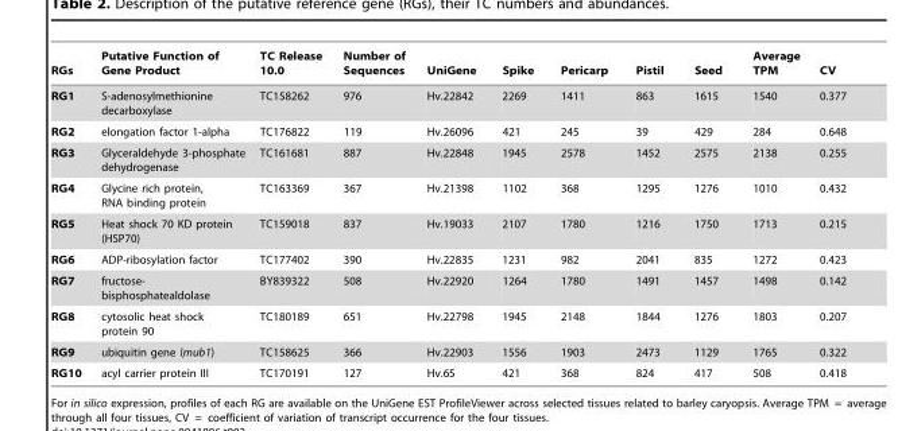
<table><thead><tr><td>RGs</td><td>Putative Function of Gene Product</td><td>TC Release 10.0</td><td>Number of Sequences</td><td>UniGene</td><td>Spike</td><td>Pericarp</td><td>Pistil</td><td>Seed</td><td>Average TPM</td><td>CV</td></tr></thead><tbody><tr><td>RG1</td><td>S-adenosylmethionine decarboxylase</td><td>TC158262</td><td>976</td><td>Hv.22842</td><td>2269</td><td>1411</td><td>863</td><td>1615</td><td>1540</td><td>0.377</td></tr><tr><td>RG2</td><td>elongation factor 1-alpha</td><td>TC176822</td><td>119</td><td>Hv.26096</td><td>421</td><td>245</td><td>39</td><td>429</td><td>284</td><td>0.648</td></tr><tr><td>RG3</td><td>Glyceraldehyde 3-phosphate dehydrogenase</td><td>TC161681</td><td>887</td><td>Hv.22848</td><td>1945</td><td>2578</td><td>1452</td><td>2575</td><td>2138</td><td>0.255</td></tr><tr><td>RG4</td><td>Glycine rich protein, RNA binding protein</td><td>TC163369</td><td>367</td><td>Hv.21398</td><td>1102</td><td>368</td><td>1295</td><td>1276</td><td>1010</td><td>0.432</td></tr><tr><td>RG5</td><td>Heat shock 70 KD protein (HSP70)</td><td>TC159018</td><td>837</td><td>Hv.19033</td><td>2107</td><td>1780</td><td>1216</td><td>1750</td><td>1713</td><td>0.215</td></tr><tr><td>RG6</td><td>ADP-ribosylation factor</td><td>TC177402</td><td>390</td><td>Hv.22835</td><td>1231</td><td>982</td><td>2041</td><td>835</td><td>1272</td><td>0.423</td></tr><tr><td>RG7</td><td>fructose- bisphosphatealdolase</td><td>BY839322</td><td>508</td><td>Hv.22920</td><td>1264</td><td>1780</td><td>1491</td><td>1457</td><td>1498</td><td>0.142</td></tr><tr><td>RG8</td><td>cytosolic heat shock protein 90</td><td>TC180189</td><td>651</td><td>Hv.22798</td><td>1945</td><td>2148</td><td>1844</td><td>1276</td><td>1803</td><td>0.207</td></tr><tr><td>RG9</td><td>ubiquitin gene (mub1)</td><td>TC158625</td><td>366</td><td>Hv.22903</td><td>1556</td><td>1903</td><td>2473</td><td>1129</td><td>1765</td><td>0.322</td></tr><tr><td>RG10</td><td>acyl carrier protein III</td><td>TC170191</td><td>127</td><td>Hv.65</td><td>421</td><td>368</td><td>824</td><td>417</td><td>508</td><td>0.418</td></tr></tbody></table>